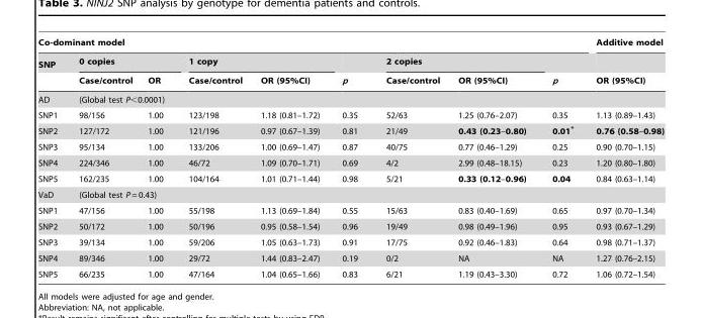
<table><thead><tr><td colspan="9">Co-dominant model</td><td rowspan="3">Additive model OR (95%CI)</td></tr><tr><td rowspan="2">SNP</td><td colspan="2">0 copies</td><td colspan="2">1 copy</td><td rowspan="2">p</td><td colspan="2">2 copies</td><td rowspan="2">p</td></tr><tr><td>Case/control</td><td>OR</td><td>Case/control</td><td>OR (95%CI)</td><td>Case/control</td><td>OR (95%CI)</td></tr></thead><tbody><tr><td>AD</td><td colspan="9">(Global test P&lt;0.0001)</td></tr><tr><td>SNP1</td><td>98/156</td><td>1.00</td><td>123/198</td><td>1.18 (0.81–1.72)</td><td>0.35</td><td>52/63</td><td>1.25 (0.76–2.07)</td><td>0.35</td><td>1.13 (0.89–1.43)</td></tr><tr><td>SNP2</td><td>127/172</td><td>1.00</td><td>121/196</td><td>0.97 (0.67–1.39)</td><td>0.81</td><td>21/49</td><td>0.43 (0.23–0.80)</td><td>0.01*</td><td>0.76 (0.58–0.98)</td></tr><tr><td>SNP3</td><td>95/134</td><td>1.00</td><td>133/206</td><td>1.00 (0.69–1.47)</td><td>0.87</td><td>40/75</td><td>0.77 (0.46–1.29)</td><td>0.25</td><td>0.90 (0.70–1.15)</td></tr><tr><td>SNP4</td><td>224/346</td><td>1.00</td><td>46/72</td><td>1.09 (0.70–1.71)</td><td>0.69</td><td>4/2</td><td>2.99 (0.48–18.15)</td><td>0.23</td><td>1.20 (0.80–1.80)</td></tr><tr><td>SNP5</td><td>162/235</td><td>1.00</td><td>104/164</td><td>1.01 (0.71–1.44)</td><td>0.98</td><td>5/21</td><td>0.33 (0.12–0.96)</td><td>0.04</td><td>0.84 (0.63–1.14)</td></tr><tr><td>VaD</td><td colspan="9">(Global test P = 0.43)</td></tr><tr><td>SNP1</td><td>47/156</td><td>1.00</td><td>55/198</td><td>1.13 (0.69–1.84)</td><td>0.55</td><td>15/63</td><td>0.83 (0.40–1.69)</td><td>0.65</td><td>0.97 (0.70–1.34)</td></tr><tr><td>SNP2</td><td>50/172</td><td>1.00</td><td>50/196</td><td>0.95 (0.58–1.54)</td><td>0.96</td><td>19/49</td><td>0.98 (0.49–1.96)</td><td>0.95</td><td>0.93 (0.67–1.29)</td></tr><tr><td>SNP3</td><td>39/134</td><td>1.00</td><td>59/206</td><td>1.05 (0.63–1.73)</td><td>0.91</td><td>17/75</td><td>0.92 (0.46–1.83)</td><td>0.64</td><td>0.98 (0.71–1.37)</td></tr><tr><td>SNP4</td><td>89/346</td><td>1.00</td><td>29/72</td><td>1.44 (0.83–2.47)</td><td>0.19</td><td>0/2</td><td>NA</td><td>NA</td><td>1.27 (0.76–2.15)</td></tr><tr><td>SNP5</td><td>66/235</td><td>1.00</td><td>47/164</td><td>1.04 (0.65–1.66)</td><td>0.83</td><td>6/21</td><td>1.19 (0.43–3.30)</td><td>0.72</td><td>1.06 (0.72–1.54)</td></tr></tbody></table>